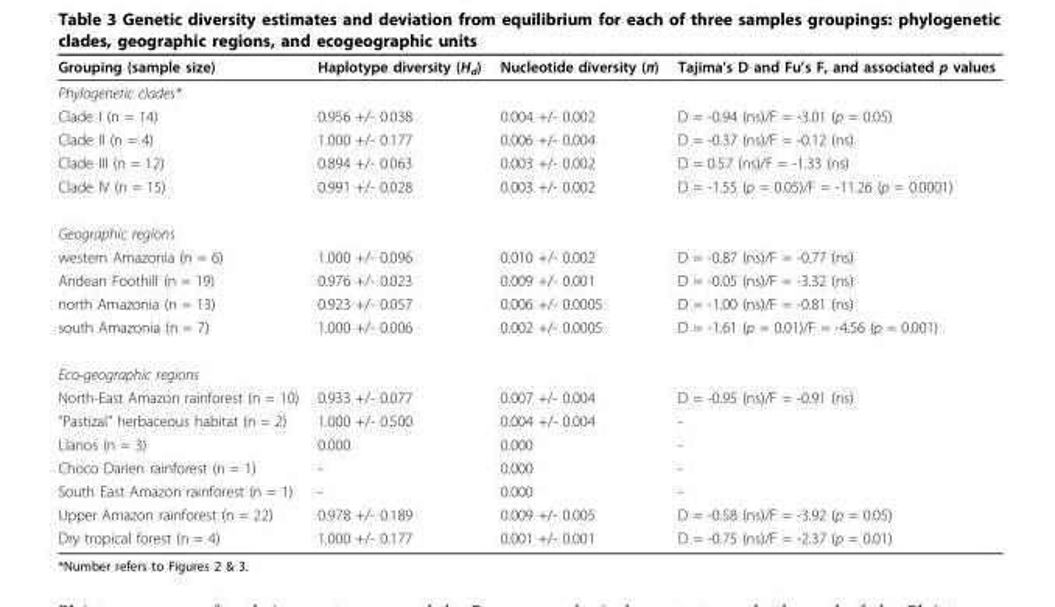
<table><thead><tr><td>Grouping (sample size)</td><td>Haplotype diversity (H<sub>d</sub>)</td><td>Nucleotide diversity (π)</td><td>Tajima’s D and Fu’s F, and associated p values</td></tr></thead><tbody><tr><td colspan="4">Phylogenetic clades*</td></tr><tr><td>Clade I (n = 14)</td><td>0.956 +/- 0.038</td><td>0.004 +/- 0.002</td><td>D = -0.94 (ns)/F = -3.01 (p = 0.05)</td></tr><tr><td>Clade II (n = 4)</td><td>1.000 +/- 0.177</td><td>0.006 +/- 0.004</td><td>D = -0.37 (ns)/F = -0.12 (ns)</td></tr><tr><td>Clade III (n = 12)</td><td>0.894 +/- 0.063</td><td>0.003 +/- 0.002</td><td>D = 0.57 (ns)/F = -1.33 (ns)</td></tr><tr><td>Clade IV (n = 15)</td><td>0.991 +/- 0.028</td><td>0.003 +/- 0.002</td><td>D = -1.55 (p = 0.05)/F = -11.26 (p = 0.0001)</td></tr><tr><td colspan="4">Geographic regions</td></tr><tr><td>western Amazonia (n = 6)</td><td>1.000 +/- 0.096</td><td>0.010 +/- 0.002</td><td>D = -0.87 (ns)/F = -0.77 (ns)</td></tr><tr><td>Andean Foothill (n = 19)</td><td>0.976 +/- 0.023</td><td>0.009 +/- 0.001</td><td>D = -0.05 (ns)/F = -3.32 (ns)</td></tr><tr><td>north Amazonia (n = 13)</td><td>0.923 +/- 0.057</td><td>0.006 +/- 0.0005</td><td>D = -1.00 (ns)/F = -0.81 (ns)</td></tr><tr><td>south Amazonia (n = 7)</td><td>1.000 +/- 0.006</td><td>0.002 +/- 0.0005</td><td>D = -1.61 (p = 0.01)/F = -4.56 (p = 0.001)</td></tr><tr><td colspan="4">Eco-geographic regions</td></tr><tr><td>North-East Amazon rainforest (n = 10)</td><td>0.933 +/- 0.077</td><td>0.007 +/- 0.004</td><td>D = -0.95 (ns)/F = -0.91 (ns)</td></tr><tr><td>“Pastizal” herbaceous habitat (n = 2)</td><td>1.000 +/- 0.500</td><td>0.004 +/- 0.004</td><td>-</td></tr><tr><td>Llanos (n = 3)</td><td>0.000</td><td>0.000</td><td>-</td></tr><tr><td>Choco Darien rainforest (n = 1)</td><td>-</td><td>0.000</td><td>-</td></tr><tr><td>South East Amazon rainforest (n = 1)</td><td>-</td><td>0.000</td><td>-</td></tr><tr><td>Upper Amazon rainforest (n = 22)</td><td>0.978 +/- 0.189</td><td>0.009 +/- 0.005</td><td>D = -0.58 (ns)/F = -3.92 (p = 0.05)</td></tr><tr><td>Dry tropical forest (n = 4)</td><td>1.000 +/- 0.177</td><td>0.001 +/- 0.001</td><td>D = -0.75 (ns)/F = -2.37 (p = 0.01)</td></tr></tbody></table>